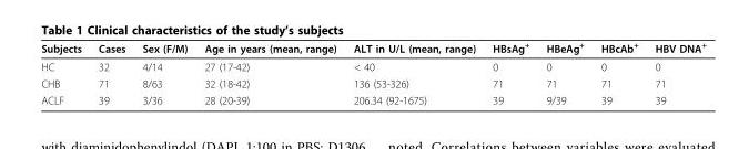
<table><thead><tr><td>Subjects</td><td>Cases</td><td>Sex (F/M)</td><td>Age in years (mean, range)</td><td>ALT in U/L (mean, range)</td><td>HBsAg<sup>+</sup></td><td>HBeAg<sup>+</sup></td><td>HBcAb<sup>+</sup></td><td>HBV DNA<sup>+</sup></td></tr></thead><tbody><tr><td>HC</td><td>32</td><td>4/14</td><td>27 (17-42)</td><td>&lt; 40</td><td>0</td><td>0</td><td>0</td><td>0</td></tr><tr><td>CHB</td><td>71</td><td>8/63</td><td>32 (18-42)</td><td>136 (53-326)</td><td>71</td><td>71</td><td>71</td><td>71</td></tr><tr><td>ACLF</td><td>39</td><td>3/36</td><td>28 (20-39)</td><td>206.34 (92-1675)</td><td>39</td><td>9/39</td><td>39</td><td>39</td></tr></tbody></table>